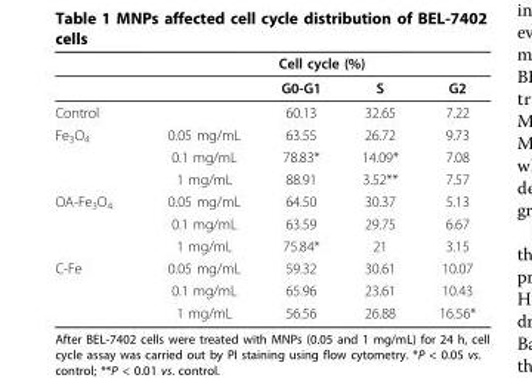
<table><thead><tr><td rowspan="2"></td><td colspan="4">Cell cycle (%)</td></tr><tr><td></td><td>G0-G1</td><td>S</td><td>G2</td></tr></thead><tbody><tr><td>Control</td><td></td><td>60.13</td><td>32.65</td><td>7.22</td></tr><tr><td rowspan="3">Fe<sub>3</sub>O<sub>4</sub></td><td>0.05 mg/mL</td><td>63.55</td><td>26.72</td><td>9.73</td></tr><tr><td>0.1 mg/mL</td><td>78.83*</td><td>14.09*</td><td>7.08</td></tr><tr><td>1 mg/mL</td><td>88.91</td><td>3.52**</td><td>7.57</td></tr><tr><td rowspan="3">OA-Fe<sub>3</sub>O<sub>4</sub></td><td>0.05 mg/mL</td><td>64.50</td><td>30.37</td><td>5.13</td></tr><tr><td>0.1 mg/mL</td><td>63.59</td><td>29.75</td><td>6.67</td></tr><tr><td>1 mg/mL</td><td>75.84*</td><td>21</td><td>3.15</td></tr><tr><td rowspan="3">C-Fe</td><td>0.05 mg/mL</td><td>59.32</td><td>30.61</td><td>10.07</td></tr><tr><td>0.1 mg/mL</td><td>65.96</td><td>23.61</td><td>10.43</td></tr><tr><td>1 mg/mL</td><td>56.56</td><td>26.88</td><td>16.56*</td></tr></tbody></table>